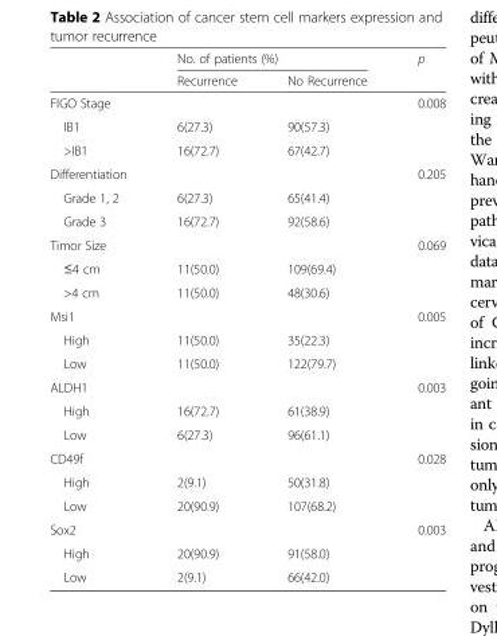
<table><thead><tr><td rowspan="2"></td><td colspan="2">No. of patients (%)</td><td rowspan="2">p</td></tr><tr><td>Recurrence</td><td>No Recurrence</td></tr></thead><tbody><tr><td>FIGO Stage</td><td></td><td></td><td>0.008</td></tr><tr><td>IB1</td><td>6(27.3)</td><td>90(57.3)</td><td></td></tr><tr><td>&gt;IB1</td><td>16(72.7)</td><td>67(42.7)</td><td></td></tr><tr><td>Differentiation</td><td></td><td></td><td>0.205</td></tr><tr><td>Grade 1, 2</td><td>6(27.3)</td><td>65(41.4)</td><td></td></tr><tr><td>Grade 3</td><td>16(72.7)</td><td>92(58.6)</td><td></td></tr><tr><td>Timor Size</td><td></td><td></td><td>0.069</td></tr><tr><td>≤4 cm</td><td>11(50.0)</td><td>109(69.4)</td><td></td></tr><tr><td>&gt;4 cm</td><td>11(50.0)</td><td>48(30.6)</td><td></td></tr><tr><td>Msi1</td><td></td><td></td><td>0.005</td></tr><tr><td>High</td><td>11(50.0)</td><td>35(22.3)</td><td></td></tr><tr><td>Low</td><td>11(50.0)</td><td>122(79.7)</td><td></td></tr><tr><td>ALDH1</td><td></td><td></td><td>0.003</td></tr><tr><td>High</td><td>16(72.7)</td><td>61(38.9)</td><td></td></tr><tr><td>Low</td><td>6(27.3)</td><td>96(61.1)</td><td></td></tr><tr><td>CD49f</td><td></td><td></td><td>0.028</td></tr><tr><td>High</td><td>2(9.1)</td><td>50(31.8)</td><td></td></tr><tr><td>Low</td><td>20(90.9)</td><td>107(68.2)</td><td></td></tr><tr><td>Sox2</td><td></td><td></td><td>0.003</td></tr><tr><td>High</td><td>20(90.9)</td><td>91(58.0)</td><td></td></tr><tr><td>Low</td><td>2(9.1)</td><td>66(42.0)</td><td></td></tr></tbody></table>